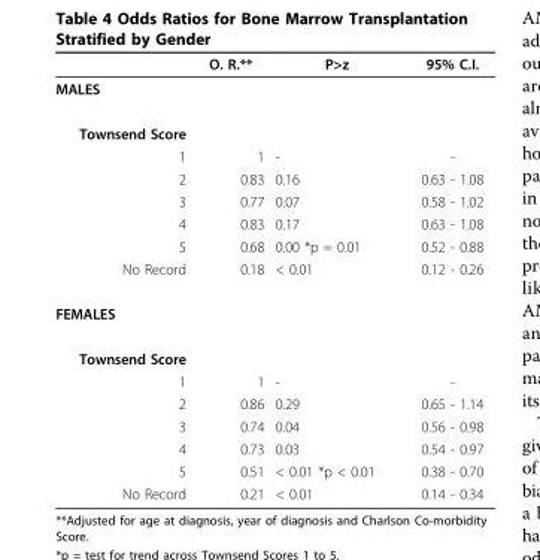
<table><thead><tr><td></td><td>O. R.**</td><td>P&gt;z</td><td>95% C.I.</td></tr></thead><tbody><tr><td colspan="4">MALES</td></tr><tr><td colspan="4">Townsend Score</td></tr><tr><td>1</td><td>1</td><td>-</td><td>-</td></tr><tr><td>2</td><td>0.83</td><td>0.16</td><td>0.63 - 1.08</td></tr><tr><td>3</td><td>0.77</td><td>0.07</td><td>0.58 - 1.02</td></tr><tr><td>4</td><td>0.83</td><td>0.17</td><td>0.63 - 1.08</td></tr><tr><td>5</td><td>0.68</td><td>0.00 *p = 0.01</td><td>0.52 - 0.88</td></tr><tr><td>No Record</td><td>0.18</td><td>&lt; 0.01</td><td>0.12 - 0.26</td></tr><tr><td colspan="4">FEMALES</td></tr><tr><td colspan="4">Townsend Score</td></tr><tr><td>1</td><td>1</td><td>-</td><td>-</td></tr><tr><td>2</td><td>0.86</td><td>0.29</td><td>0.65 - 1.14</td></tr><tr><td>3</td><td>0.74</td><td>0.04</td><td>0.56 - 0.98</td></tr><tr><td>4</td><td>0.73</td><td>0.03</td><td>0.54 - 0.97</td></tr><tr><td>5</td><td>0.51</td><td>&lt; 0.01 *p &lt; 0.01</td><td>0.38 - 0.70</td></tr><tr><td>No Record</td><td>0.21</td><td>&lt; 0.01</td><td>0.14 - 0.34</td></tr></tbody></table>